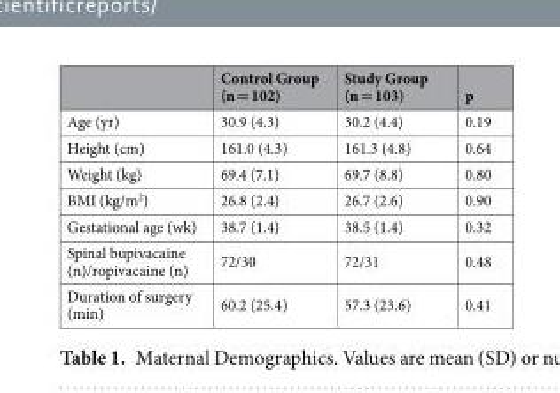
<table><thead><tr><td></td><td>Control Group (n = 102)</td><td>Study Group (n = 103)</td><td>p</td></tr></thead><tbody><tr><td>Age (yr)</td><td>30.9 (4.3)</td><td>30.2 (4.4)</td><td>0.19</td></tr><tr><td>Height (cm)</td><td>161.0 (4.3)</td><td>161.3 (4.8)</td><td>0.64</td></tr><tr><td>Weight (kg)</td><td>69.4 (7.1)</td><td>69.7 (8.8)</td><td>0.80</td></tr><tr><td>BMI (kg/m<sup>2</sup>)</td><td>26.8 (2.4)</td><td>26.7 (2.6)</td><td>0.90</td></tr><tr><td>Gestational age (wk)</td><td>38.7 (1.4)</td><td>38.5 (1.4)</td><td>0.32</td></tr><tr><td>Spinal bupivacaine (n)/ropivacaine (n)</td><td>72/30</td><td>72/31</td><td>0.48</td></tr><tr><td>Duration of surgery (min)</td><td>60.2 (25.4)</td><td>57.3 (23.6)</td><td>0.41</td></tr></tbody></table>